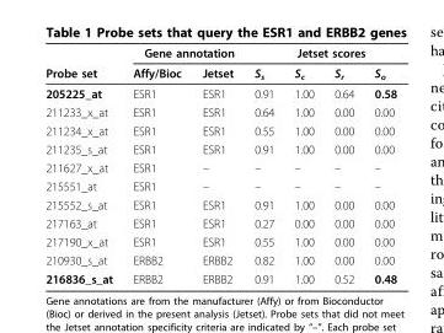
<table><thead><tr><td rowspan="2">Probe set</td><td colspan="2">Gene annotation</td><td colspan="4">Jetset scores</td></tr><tr><td>Affy/Bioc</td><td>Jetset</td><td>S<sub>s</sub></td><td>S<sub>c</sub></td><td>S<sub>r</sub></td><td>S<sub>o</sub></td></tr></thead><tbody><tr><td>205225_at</td><td>ESR1</td><td>ESR1</td><td>0.91</td><td>1.00</td><td>0.64</td><td>0.58</td></tr><tr><td>211233_x_at</td><td>ESR1</td><td>ESR1</td><td>0.64</td><td>1.00</td><td>0.00</td><td>0.00</td></tr><tr><td>211234_x_at</td><td>ESR1</td><td>ESR1</td><td>0.55</td><td>1.00</td><td>0.00</td><td>0.00</td></tr><tr><td>211235_s_at</td><td>ESR1</td><td>ESR1</td><td>0.91</td><td>1.00</td><td>0.00</td><td>0.00</td></tr><tr><td>211627_x_at</td><td>ESR1</td><td>–</td><td>–</td><td>–</td><td>–</td><td>–</td></tr><tr><td>215551_at</td><td>ESR1</td><td>–</td><td>–</td><td>–</td><td>–</td><td>–</td></tr><tr><td>215552_s_at</td><td>ESR1</td><td>ESR1</td><td>0.91</td><td>1.00</td><td>0.00</td><td>0.00</td></tr><tr><td>217163_at</td><td>ESR1</td><td>ESR1</td><td>0.27</td><td>0.00</td><td>0.00</td><td>0.00</td></tr><tr><td>217190_x_at</td><td>ESR1</td><td>ESR1</td><td>0.55</td><td>1.00</td><td>0.00</td><td>0.00</td></tr><tr><td>210930_s_at</td><td>ERBB2</td><td>ERBB2</td><td>0.82</td><td>1.00</td><td>0.00</td><td>0.00</td></tr><tr><td>216836_s_at</td><td>ERBB2</td><td>ERBB2</td><td>0.91</td><td>1.00</td><td>0.52</td><td>0.48</td></tr></tbody></table>